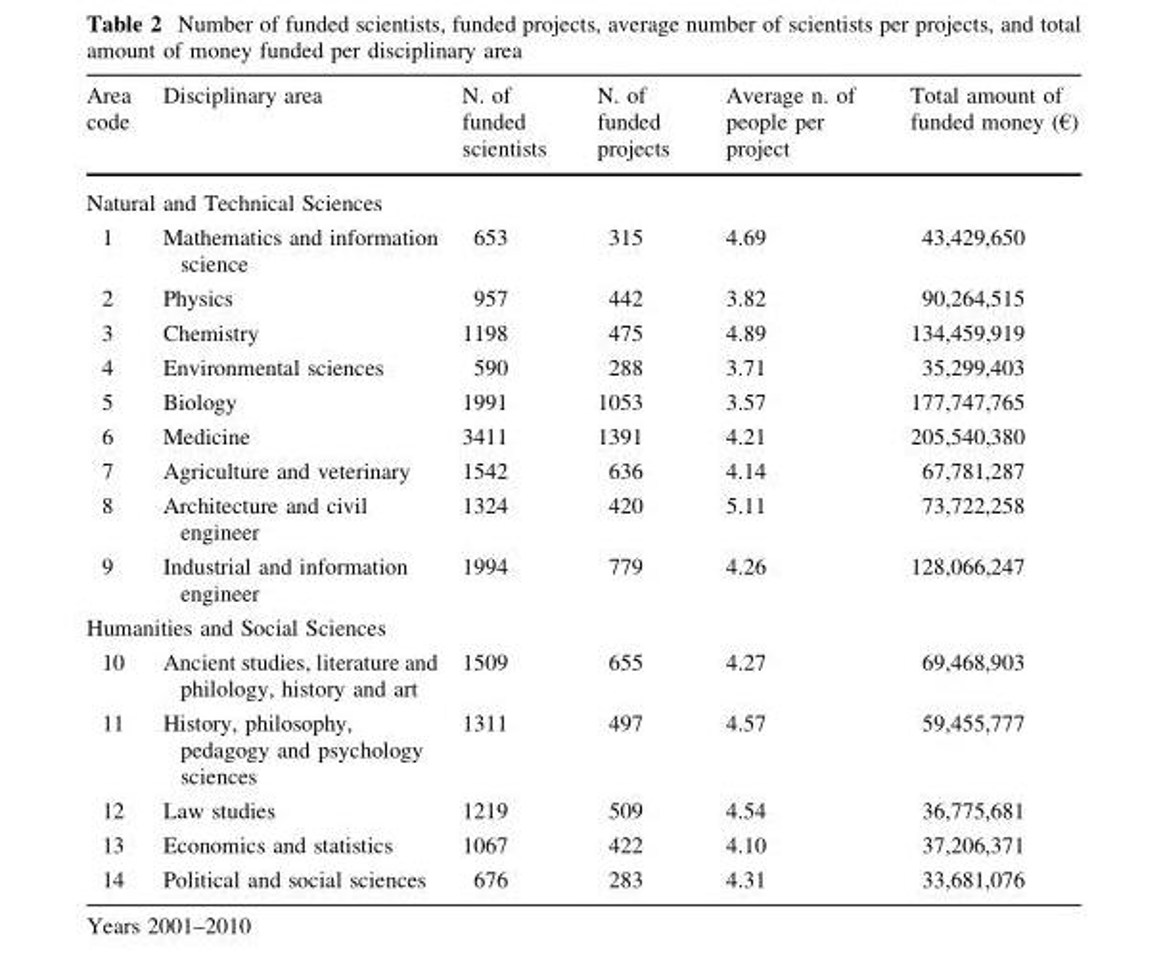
<table><thead><tr><td>Area code</td><td>Disciplinary area</td><td>N. of funded scientists</td><td>N. of funded projects</td><td>Average n. of people per project</td><td>Total amount of funded money (€)</td></tr></thead><tbody><tr><td colspan="6">Natural and Technical Sciences</td></tr><tr><td>1</td><td>Mathematics and information science</td><td>653</td><td>315</td><td>4.69</td><td>43,429,650</td></tr><tr><td>2</td><td>Physics</td><td>957</td><td>442</td><td>3.82</td><td>90,264,515</td></tr><tr><td>3</td><td>Chemistry</td><td>1198</td><td>475</td><td>4.89</td><td>134,459,919</td></tr><tr><td>4</td><td>Environmental sciences</td><td>590</td><td>288</td><td>3.71</td><td>35,299,403</td></tr><tr><td>5</td><td>Biology</td><td>1991</td><td>1053</td><td>3.57</td><td>177,747,765</td></tr><tr><td>6</td><td>Medicine</td><td>3411</td><td>1391</td><td>4.21</td><td>205,540,380</td></tr><tr><td>7</td><td>Agriculture and veterinary</td><td>1542</td><td>636</td><td>4.14</td><td>67,781,287</td></tr><tr><td>8</td><td>Architecture and civil engineer</td><td>1324</td><td>420</td><td>5.11</td><td>73,722,258</td></tr><tr><td>9</td><td>Industrial and information engineer</td><td>1994</td><td>779</td><td>4.26</td><td>128,066,247</td></tr><tr><td colspan="6">Humanities and Social Sciences</td></tr><tr><td>10</td><td>Ancient studies, literature and philology, history and art</td><td>1509</td><td>655</td><td>4.27</td><td>69,468,903</td></tr><tr><td>11</td><td>History, philosophy, pedagogy and psychology sciences</td><td>1311</td><td>497</td><td>4.57</td><td>59,455,777</td></tr><tr><td>12</td><td>Law studies</td><td>1219</td><td>509</td><td>4.54</td><td>36,775,681</td></tr><tr><td>13</td><td>Economics and statistics</td><td>1067</td><td>422</td><td>4.10</td><td>37,206,371</td></tr><tr><td>14</td><td>Political and social sciences</td><td>676</td><td>283</td><td>4.31</td><td>33,681,076</td></tr></tbody></table>